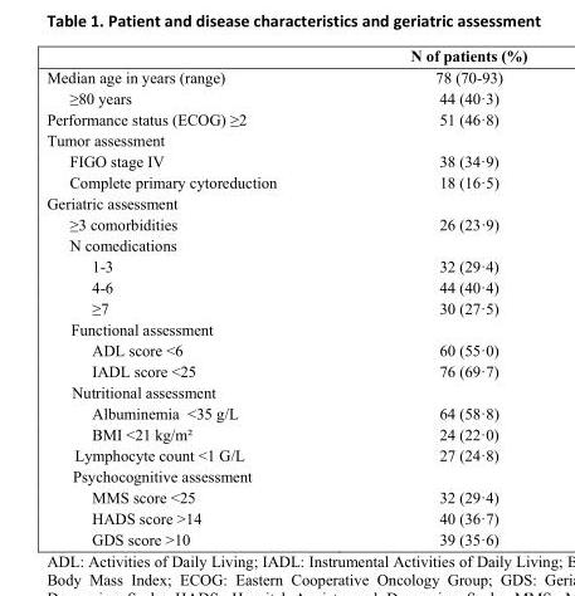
<table><thead><tr><td></td><td>N of patients (%)</td></tr></thead><tbody><tr><td>Median age in years (range)</td><td>78 (70-93)</td></tr><tr><td>≥80 years</td><td>44 (40·3)</td></tr><tr><td>Performance status (ECOG) ≥2</td><td>51 (46·8)</td></tr><tr><td colspan="2">Tumor assessment</td></tr><tr><td>FIGO stage IV</td><td>38 (34·9)</td></tr><tr><td>Complete primary cytoreduction</td><td>18 (16·5)</td></tr><tr><td colspan="2">Geriatric assessment</td></tr><tr><td>≥3 comorbidities</td><td>26 (23·9)</td></tr><tr><td colspan="2">N comedications</td></tr><tr><td>1-3</td><td>32 (29·4)</td></tr><tr><td>4-6</td><td>44 (40·4)</td></tr><tr><td>≥7</td><td>30 (27·5)</td></tr><tr><td colspan="2">Functional assessment</td></tr><tr><td>ADL score &lt;6</td><td>60 (55·0)</td></tr><tr><td>IADL score &lt;25</td><td>76 (69·7)</td></tr><tr><td colspan="2">Nutritional assessment</td></tr><tr><td>Albuminemia &lt;35 g/L</td><td>64 (58·8)</td></tr><tr><td>BMI &lt;21 kg/m²</td><td>24 (22·0)</td></tr><tr><td>Lymphocyte count &lt;1 G/L</td><td>27 (24·8)</td></tr><tr><td colspan="2">Psychocognitive assessment</td></tr><tr><td>MMS score &lt;25</td><td>32 (29·4)</td></tr><tr><td>HADS score &gt;14</td><td>40 (36·7)</td></tr><tr><td>GDS score &gt;10</td><td>39 (35·6)</td></tr></tbody></table>